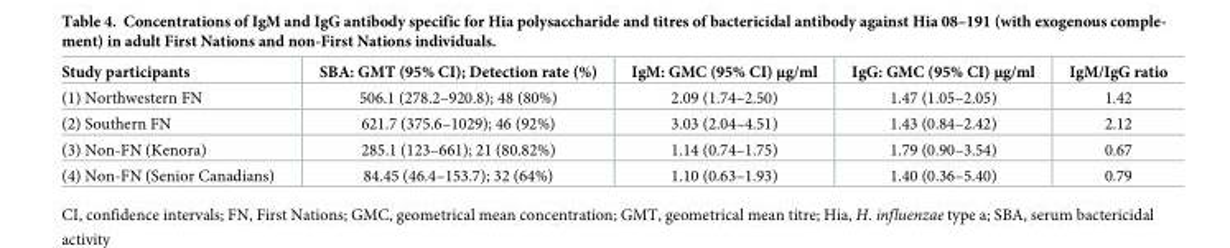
<table><thead><tr><td>Study participants</td><td>SBA: GMT (95% CI); Detection rate (%)</td><td>IgM: GMC (95% CI) μg/ml</td><td>IgG: GMC (95% CI) μg/ml</td><td>IgM/IgG ratio</td></tr></thead><tbody><tr><td>(1) Northwestern FN</td><td>506.1 (278.2–920.8); 48 (80%)</td><td>2.09 (1.74–2.50)</td><td>1.47 (1.05–2.05)</td><td>1.42</td></tr><tr><td>(2) Southern FN</td><td>621.7 (375.6–1029); 46 (92%)</td><td>3.03 (2.04–4.51)</td><td>1.43 (0.84–2.42)</td><td>2.12</td></tr><tr><td>(3) Non-FN (Kenora)</td><td>285.1 (123–661); 21 (80.82%)</td><td>1.14 (0.74–1.75)</td><td>1.79 (0.90–3.54)</td><td>0.67</td></tr><tr><td>(4) Non-FN (Senior Canadians)</td><td>84.45 (46.4–153.7); 32 (64%)</td><td>1.10 (0.63–1.93)</td><td>1.40 (0.36–5.40)</td><td>0.79</td></tr></tbody></table>